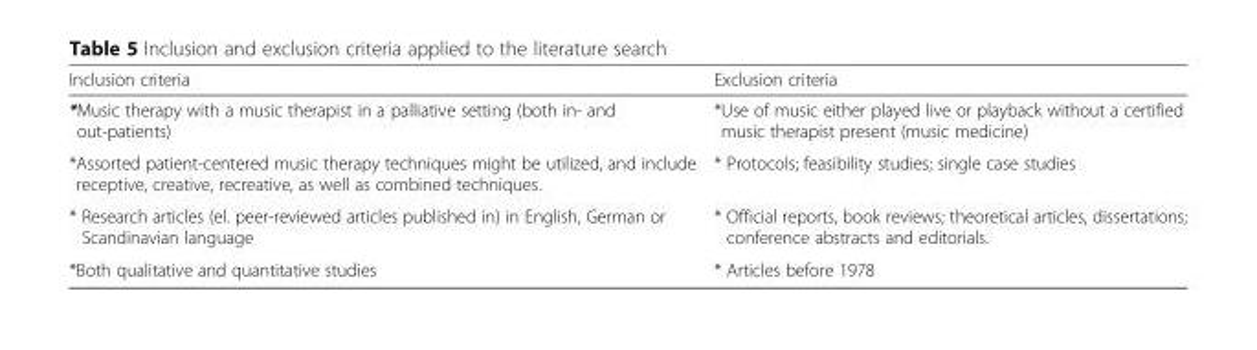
<table><thead><tr><td>Inclusion criteria</td><td>Exclusion criteria</td></tr></thead><tbody><tr><td>*Music therapy with a music therapist in a palliative setting (both in- and out-patients)</td><td>*Use of music either played live or playback without a certified music therapist present (music medicine)</td></tr><tr><td>*Assorted patient-centered music therapy techniques might be utilized, and include receptive, creative, recreative, as well as combined techniques.</td><td>* Protocols; feasibility studies; single case studies</td></tr><tr><td>* Research articles (el. peer-reviewed articles published in) in English, German or Scandinavian language</td><td>* Official reports, book reviews; theoretical articles, dissertations; conference abstracts and editorials.</td></tr><tr><td>*Both qualitative and quantitative studies</td><td>* Articles before 1978</td></tr></tbody></table>